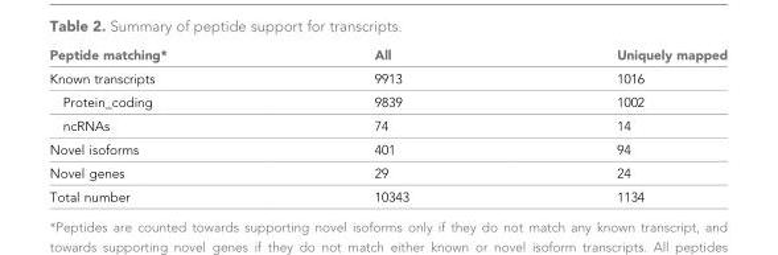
<table><thead><tr><td>Peptide matching*</td><td>All</td><td>Uniquely mapped</td></tr></thead><tbody><tr><td>Known transcripts</td><td>9913</td><td>1016</td></tr><tr><td>Protein_coding</td><td>9839</td><td>1002</td></tr><tr><td>ncRNAs</td><td>74</td><td>14</td></tr><tr><td>Novel isoforms</td><td>401</td><td>94</td></tr><tr><td>Novel genes</td><td>29</td><td>24</td></tr><tr><td>Total number</td><td>10343</td><td>1134</td></tr></tbody></table>